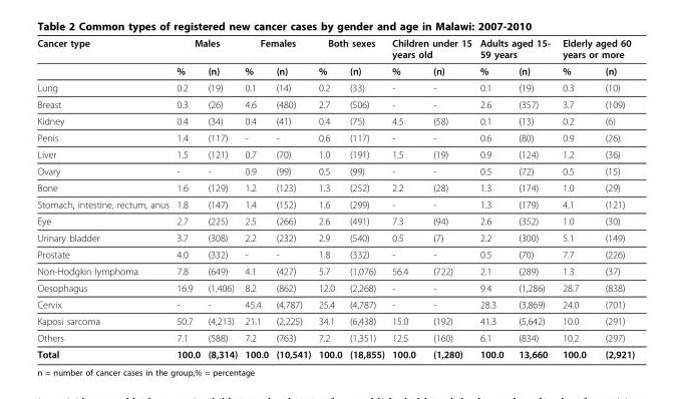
<table><thead><tr><td rowspan="2">Cancer type</td><td colspan="2">Males</td><td colspan="2">Females</td><td colspan="2">Both sexes</td><td colspan="2">Children under 15 years old</td><td colspan="2">Adults aged 15- 59 years</td><td colspan="2">Elderly aged 60 years or more</td></tr><tr><td>%</td><td>(n)</td><td>%</td><td>(n)</td><td>%</td><td>(n)</td><td>%</td><td>(n)</td><td>%</td><td>(n)</td><td>%</td><td>(n)</td></tr></thead><tbody><tr><td>Lung</td><td>0.2</td><td>(19)</td><td>0.1</td><td>(14)</td><td>0.2</td><td>(33)</td><td>-</td><td>-</td><td>0.1</td><td>(19)</td><td>0.3</td><td>(10)</td></tr><tr><td>Breast</td><td>0.3</td><td>(26)</td><td>4.6</td><td>(480)</td><td>2.7</td><td>(506)</td><td>-</td><td>-</td><td>2.6</td><td>(357)</td><td>3.7</td><td>(109)</td></tr><tr><td>Kidney</td><td>0.4</td><td>(34)</td><td>0.4</td><td>(41)</td><td>0.4</td><td>(75)</td><td>4.5</td><td>(58)</td><td>0.1</td><td>(13)</td><td>0.2</td><td>(6)</td></tr><tr><td>Penis</td><td>1.4</td><td>(117)</td><td>-</td><td>-</td><td>0.6</td><td>(117)</td><td>-</td><td>-</td><td>0.6</td><td>(80)</td><td>0.9</td><td>(26)</td></tr><tr><td>Liver</td><td>1.5</td><td>(121)</td><td>0.7</td><td>(70)</td><td>1.0</td><td>(191)</td><td>1.5</td><td>(19)</td><td>0.9</td><td>(124)</td><td>1.2</td><td>(36)</td></tr><tr><td>Ovary</td><td>-</td><td>-</td><td>0.9</td><td>(99)</td><td>0.5</td><td>(99)</td><td>-</td><td>-</td><td>0.5</td><td>(72)</td><td>0.5</td><td>(15)</td></tr><tr><td>Bone</td><td>1.6</td><td>(129)</td><td>1.2</td><td>(123)</td><td>1.3</td><td>(252)</td><td>2.2</td><td>(28)</td><td>1.3</td><td>(174)</td><td>1.0</td><td>(29)</td></tr><tr><td>Stomach, intestine, rectum, anus</td><td>1.8</td><td>(147)</td><td>1.4</td><td>(152)</td><td>1.6</td><td>(299)</td><td>-</td><td>-</td><td>1.3</td><td>(179)</td><td>4.1</td><td>(121)</td></tr><tr><td>Eye</td><td>2.7</td><td>(225)</td><td>2.5</td><td>(266)</td><td>2.6</td><td>(491)</td><td>7.3</td><td>(94)</td><td>2.6</td><td>(352)</td><td>1.0</td><td>(30)</td></tr><tr><td>Urinary bladder</td><td>3.7</td><td>(308)</td><td>2.2</td><td>(232)</td><td>2.9</td><td>(540)</td><td>0.5</td><td>(7)</td><td>2.2</td><td>(300)</td><td>5.1</td><td>(149)</td></tr><tr><td>Prostate</td><td>4.0</td><td>(332)</td><td>-</td><td>-</td><td>1.8</td><td>(332)</td><td>-</td><td>-</td><td>0.5</td><td>(70)</td><td>7.7</td><td>(226)</td></tr><tr><td>Non-Hodgkin lymphoma</td><td>7.8</td><td>(649)</td><td>4.1</td><td>(427)</td><td>5.7</td><td>(1,076)</td><td>56.4</td><td>(722)</td><td>2.1</td><td>(289)</td><td>1.3</td><td>(37)</td></tr><tr><td>Oesophagus</td><td>16.9</td><td>(1,406)</td><td>8.2</td><td>(862)</td><td>12.0</td><td>(2,268)</td><td>-</td><td>-</td><td>9.4</td><td>(1,286)</td><td>28.7</td><td>(838)</td></tr><tr><td>Cervix</td><td>-</td><td>-</td><td>45.4</td><td>(4,787)</td><td>25.4</td><td>(4,787)</td><td>-</td><td>-</td><td>28.3</td><td>(3,869)</td><td>24.0</td><td>(701)</td></tr><tr><td>Kaposi sarcoma</td><td>50.7</td><td>(4,213)</td><td>21.1</td><td>(2,225)</td><td>34.1</td><td>(6,438)</td><td>15.0</td><td>(192)</td><td>41.3</td><td>(5,642)</td><td>10.0</td><td>(291)</td></tr><tr><td>Others</td><td>7.1</td><td>(588)</td><td>7.2</td><td>(763)</td><td>7.2</td><td>(1,351)</td><td>12.5</td><td>(160)</td><td>6.1</td><td>(834)</td><td>10.2</td><td>(297)</td></tr><tr><td>Total</td><td>100.0</td><td>(8,314)</td><td>100.0</td><td>(10,541)</td><td>100.0</td><td>(18,855)</td><td>100.0</td><td>(1,280)</td><td>100.0</td><td>13,660</td><td>100.0</td><td>(2,921)</td></tr></tbody></table>